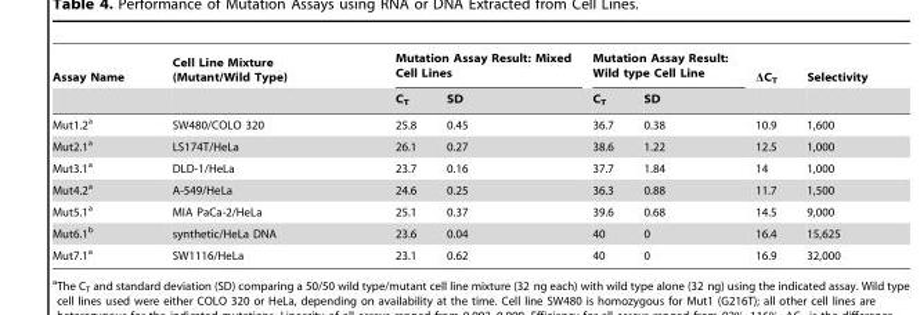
<table><thead><tr><td rowspan="2">Assay Name</td><td rowspan="2">Cell Line Mixture (Mutant/Wild Type)</td><td colspan="2">Mutation Assay Result: Mixed Cell Lines</td><td colspan="2">Mutation Assay Result: Wild type Cell Line</td><td rowspan="2">ΔC<sub>T</sub></td><td rowspan="2">Selectivity</td></tr><tr><td>C<sub>T</sub></td><td>SD</td><td>C<sub>T</sub></td><td>SD</td></tr></thead><tbody><tr><td>Mut1.2<sup>a</sup></td><td>SW480/COLO 320</td><td>25.8</td><td>0.45</td><td>36.7</td><td>0.38</td><td>10.9</td><td>1,600</td></tr><tr><td>Mut2.1<sup>a</sup></td><td>LS174T/HeLa</td><td>26.1</td><td>0.27</td><td>38.6</td><td>1.22</td><td>12.5</td><td>1,000</td></tr><tr><td>Mut3.1<sup>a</sup></td><td>DLD-1/HeLa</td><td>23.7</td><td>0.16</td><td>37.7</td><td>1.84</td><td>14</td><td>1,000</td></tr><tr><td>Mut4.2<sup>a</sup></td><td>A-549/HeLa</td><td>24.6</td><td>0.25</td><td>36.3</td><td>0.88</td><td>11.7</td><td>1,500</td></tr><tr><td>Mut5.1<sup>a</sup></td><td>MIA PaCa-2/HeLa</td><td>25.1</td><td>0.37</td><td>39.6</td><td>0.68</td><td>14.5</td><td>9,000</td></tr><tr><td>Mut6.1<sup>b</sup></td><td>synthetic/HeLa DNA</td><td>23.6</td><td>0.04</td><td>40</td><td>0</td><td>16.4</td><td>15,625</td></tr><tr><td>Mut7.1<sup>a</sup></td><td>SW1116/HeLa</td><td>23.1</td><td>0.62</td><td>40</td><td>0</td><td>16.9</td><td>32,000</td></tr></tbody></table>